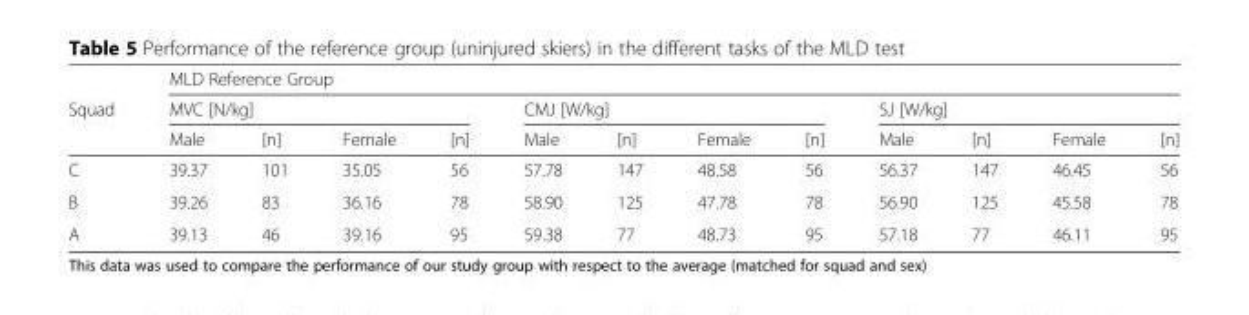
<table><thead><tr><td rowspan="3">Squad</td><td colspan="12">MLD Reference Group</td></tr><tr><td colspan="4">MVC [N/kg]</td><td colspan="4">CMJ [W/kg]</td><td colspan="4">SJ [W/kg]</td></tr><tr><td>Male</td><td>[n]</td><td>Female</td><td>[n]</td><td>Male</td><td>[n]</td><td>Female</td><td>[n]</td><td>Male</td><td>[n]</td><td>Female</td><td>[n]</td></tr></thead><tbody><tr><td>C</td><td>39.37</td><td>101</td><td>35.05</td><td>56</td><td>57.78</td><td>147</td><td>48.58</td><td>56</td><td>56.37</td><td>147</td><td>46.45</td><td>56</td></tr><tr><td>B</td><td>39.26</td><td>83</td><td>36.16</td><td>78</td><td>58.90</td><td>125</td><td>47.78</td><td>78</td><td>56.90</td><td>125</td><td>45.58</td><td>78</td></tr><tr><td>A</td><td>39.13</td><td>46</td><td>39.16</td><td>95</td><td>59.38</td><td>77</td><td>48.73</td><td>95</td><td>57.18</td><td>77</td><td>46.11</td><td>95</td></tr></tbody></table>